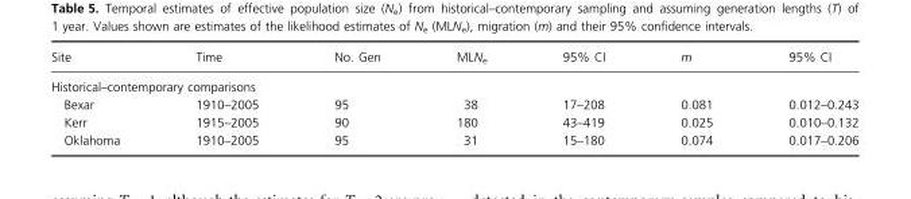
<table><thead><tr><td>Site</td><td>Time</td><td>No. Gen</td><td>MLN<sub>e</sub></td><td>95% CI</td><td>m</td><td>95% CI</td></tr></thead><tbody><tr><td colspan="7">Historical–contemporary comparisons</td></tr><tr><td>Bexar</td><td>1910–2005</td><td>95</td><td>38</td><td>17–208</td><td>0.081</td><td>0.012–0.243</td></tr><tr><td>Kerr</td><td>1915–2005</td><td>90</td><td>180</td><td>43–419</td><td>0.025</td><td>0.010–0.132</td></tr><tr><td>Oklahoma</td><td>1910–2005</td><td>95</td><td>31</td><td>15–180</td><td>0.074</td><td>0.017–0.206</td></tr></tbody></table>